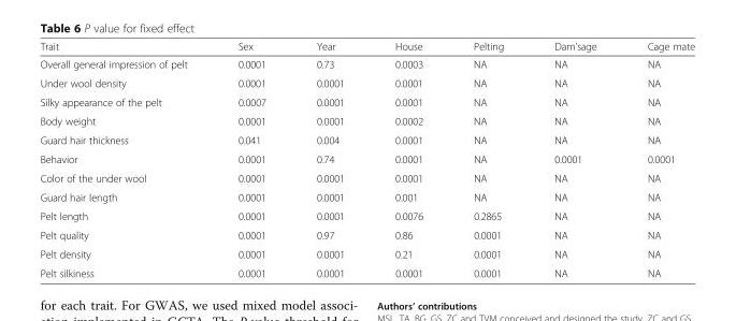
<table><thead><tr><td>Trait</td><td>Sex</td><td>Year</td><td>House</td><td>Pelting</td><td>Dam’sage</td><td>Cage mate</td></tr></thead><tbody><tr><td>Overall general impression of pelt</td><td>0.0001</td><td>0.73</td><td>0.0003</td><td>NA</td><td>NA</td><td>NA</td></tr><tr><td>Under wool density</td><td>0.0001</td><td>0.0001</td><td>0.0001</td><td>NA</td><td>NA</td><td>NA</td></tr><tr><td>Silky appearance of the pelt</td><td>0.0007</td><td>0.0001</td><td>0.0001</td><td>NA</td><td>NA</td><td>NA</td></tr><tr><td>Body weight</td><td>0.0001</td><td>0.0001</td><td>0.0002</td><td>NA</td><td>NA</td><td>NA</td></tr><tr><td>Guard hair thickness</td><td>0.041</td><td>0.004</td><td>0.0001</td><td>NA</td><td>NA</td><td>NA</td></tr><tr><td>Behavior</td><td>0.0001</td><td>0.74</td><td>0.0001</td><td>NA</td><td>0.0001</td><td>0.0001</td></tr><tr><td>Color of the under wool</td><td>0.0001</td><td>0.0001</td><td>0.0001</td><td>NA</td><td>NA</td><td>NA</td></tr><tr><td>Guard hair length</td><td>0.0001</td><td>0.0001</td><td>0.001</td><td>NA</td><td>NA</td><td>NA</td></tr><tr><td>Pelt length</td><td>0.0001</td><td>0.0001</td><td>0.0076</td><td>0.2865</td><td>NA</td><td>NA</td></tr><tr><td>Pelt quality</td><td>0.0001</td><td>0.97</td><td>0.86</td><td>0.0001</td><td>NA</td><td>NA</td></tr><tr><td>Pelt density</td><td>0.0001</td><td>0.0001</td><td>0.21</td><td>0.0001</td><td>NA</td><td>NA</td></tr><tr><td>Pelt silkiness</td><td>0.0001</td><td>0.0001</td><td>0.0001</td><td>0.0001</td><td>NA</td><td>NA</td></tr></tbody></table>